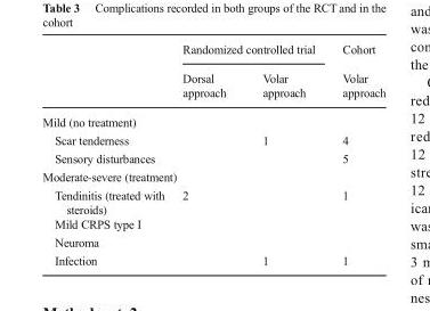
<table><thead><tr><td rowspan="2"></td><td colspan="2">Randomized controlled trial</td><td rowspan="2">Cohort Volar approach</td></tr><tr><td>Dorsal approach</td><td>Volar approach</td></tr></thead><tbody><tr><td colspan="4">Mild (no treatment)</td></tr><tr><td>Scar tenderness</td><td></td><td>1</td><td>4</td></tr><tr><td>Sensory disturbances</td><td></td><td></td><td>5</td></tr><tr><td colspan="4">Moderate-severe (treatment)</td></tr><tr><td>Tendinitis (treated with steroids)</td><td>2</td><td></td><td>1</td></tr><tr><td colspan="4">Mild CRPS type I</td></tr><tr><td colspan="4">Neuroma</td></tr><tr><td>Infection</td><td></td><td>1</td><td>1</td></tr></tbody></table>